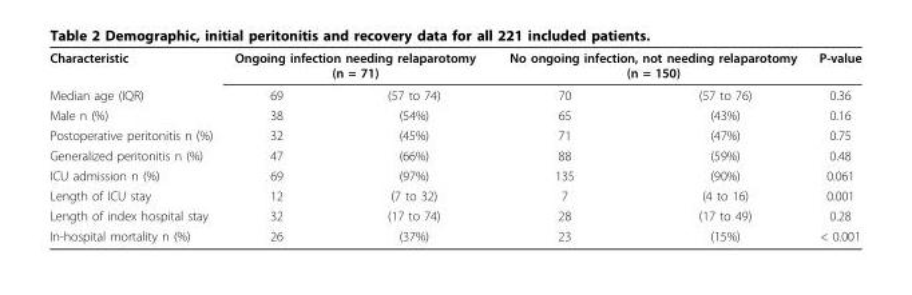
<table><tbody><tr><td>Characteristic</td><td colspan="2">Ongoing infection needing relaparotomy (n = 71)</td><td colspan="2">No ongoing infection, not needing relaparotomy (n = 150)</td><td>P-value</td></tr><tr><td>Median age (IQR)</td><td>69</td><td>(57 to 74)</td><td>70</td><td>(57 to 76)</td><td>0.36</td></tr><tr><td>Male n (%)</td><td>38</td><td>(54%)</td><td>65</td><td>(43%)</td><td>0.16</td></tr><tr><td>Postoperative peritonitis n (%)</td><td>32</td><td>(45%)</td><td>71</td><td>(47%)</td><td>0.75</td></tr><tr><td>Generalized peritonitis n (%)</td><td>47</td><td>(66%)</td><td>88</td><td>(59%)</td><td>0.48</td></tr><tr><td>ICU admission n (%)</td><td>69</td><td>(97%)</td><td>135</td><td>(90%)</td><td>0.061</td></tr><tr><td>Length of ICU stay</td><td>12</td><td>(7 to 32)</td><td>7</td><td>(4 to 16)</td><td>0.001</td></tr><tr><td>Length of index hospital stay</td><td>32</td><td>(17 to 74)</td><td>28</td><td>(17 to 49)</td><td>0.28</td></tr><tr><td>In-hospital mortality n (%)</td><td>26</td><td>(37%)</td><td>23</td><td>(15%)</td><td>&lt; 0.001</td></tr></tbody></table>